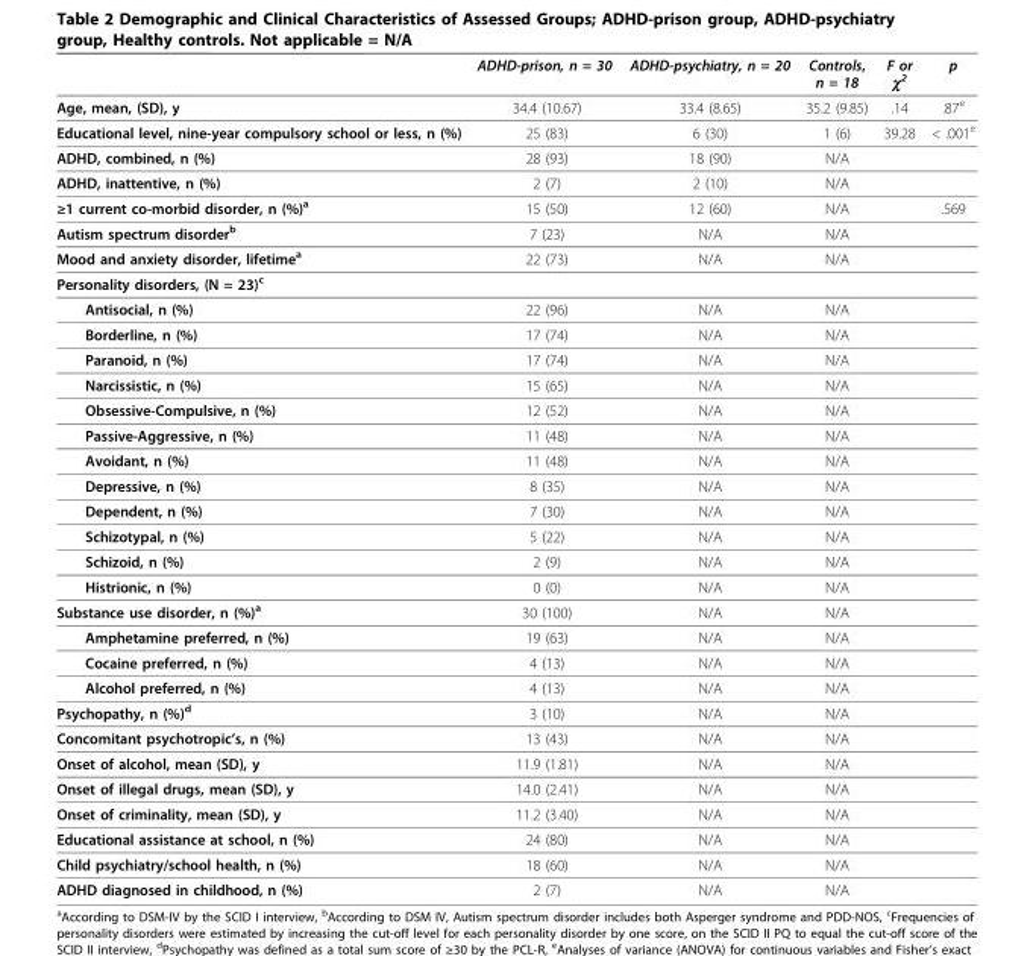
<table><thead><tr><td></td><td>ADHD-prison, n = 30</td><td>ADHD-psychiatry, n = 20</td><td>Controls, n = 18</td><td>F or χ<sup>2</sup></td><td>p</td></tr></thead><tbody><tr><td>Age, mean, (SD), y</td><td>34.4 (10.67)</td><td>33.4 (8.65)</td><td>35.2 (9.85)</td><td>.14</td><td>.87<sup>e</sup></td></tr><tr><td>Educational level, nine-year compulsory school or less, n (%)</td><td>25 (83)</td><td>6 (30)</td><td>1 (6)</td><td>39.28</td><td>&lt; .001<sup>e</sup></td></tr><tr><td>ADHD, combined, n (%)</td><td>28 (93)</td><td>18 (90)</td><td>N/A</td><td></td><td></td></tr><tr><td>ADHD, inattentive, n (%)</td><td>2 (7)</td><td>2 (10)</td><td>N/A</td><td></td><td></td></tr><tr><td>≥1 current co-morbid disorder, n (%)<sup>a</sup></td><td>15 (50)</td><td>12 (60)</td><td>N/A</td><td></td><td>.569</td></tr><tr><td>Autism spectrum disorder<sup>b</sup></td><td>7 (23)</td><td>N/A</td><td>N/A</td><td></td><td></td></tr><tr><td>Mood and anxiety disorder, lifetime<sup>a</sup></td><td>22 (73)</td><td>N/A</td><td>N/A</td><td></td><td></td></tr><tr><td colspan="6">Personality disorders, (N = 23)<sup>c</sup></td></tr><tr><td>Antisocial, n (%)</td><td>22 (96)</td><td>N/A</td><td>N/A</td><td></td><td></td></tr><tr><td>Borderline, n (%)</td><td>17 (74)</td><td>N/A</td><td>N/A</td><td></td><td></td></tr><tr><td>Paranoid, n (%)</td><td>17 (74)</td><td>N/A</td><td>N/A</td><td></td><td></td></tr><tr><td>Narcissistic, n (%)</td><td>15 (65)</td><td>N/A</td><td>N/A</td><td></td><td></td></tr><tr><td>Obsessive-Compulsive, n (%)</td><td>12 (52)</td><td>N/A</td><td>N/A</td><td></td><td></td></tr><tr><td>Passive-Aggressive, n (%)</td><td>11 (48)</td><td>N/A</td><td>N/A</td><td></td><td></td></tr><tr><td>Avoidant, n (%)</td><td>11 (48)</td><td>N/A</td><td>N/A</td><td></td><td></td></tr><tr><td>Depressive, n (%)</td><td>8 (35)</td><td>N/A</td><td>N/A</td><td></td><td></td></tr><tr><td>Dependent, n (%)</td><td>7 (30)</td><td>N/A</td><td>N/A</td><td></td><td></td></tr><tr><td>Schizotypal, n (%)</td><td>5 (22)</td><td>N/A</td><td>N/A</td><td></td><td></td></tr><tr><td>Schizoid, n (%)</td><td>2 (9)</td><td>N/A</td><td>N/A</td><td></td><td></td></tr><tr><td>Histrionic, n (%)</td><td>0 (0)</td><td>N/A</td><td>N/A</td><td></td><td></td></tr><tr><td>Substance use disorder, n (%)<sup>a</sup></td><td>30 (100)</td><td>N/A</td><td>N/A</td><td></td><td></td></tr><tr><td>Amphetamine preferred, n (%)</td><td>19 (63)</td><td>N/A</td><td>N/A</td><td></td><td></td></tr><tr><td>Cocaine preferred, n (%)</td><td>4 (13)</td><td>N/A</td><td>N/A</td><td></td><td></td></tr><tr><td>Alcohol preferred, n (%)</td><td>4 (13)</td><td>N/A</td><td>N/A</td><td></td><td></td></tr><tr><td>Psychopathy, n (%)<sup>d</sup></td><td>3 (10)</td><td>N/A</td><td>N/A</td><td></td><td></td></tr><tr><td>Concomitant psychotropic’s, n (%)</td><td>13 (43)</td><td>N/A</td><td>N/A</td><td></td><td></td></tr><tr><td>Onset of alcohol, mean (SD), y</td><td>11.9 (1.81)</td><td>N/A</td><td>N/A</td><td></td><td></td></tr><tr><td>Onset of illegal drugs, mean (SD), y</td><td>14.0 (2.41)</td><td>N/A</td><td>N/A</td><td></td><td></td></tr><tr><td>Onset of criminality, mean (SD), y</td><td>11.2 (3.40)</td><td>N/A</td><td>N/A</td><td></td><td></td></tr><tr><td>Educational assistance at school, n (%)</td><td>24 (80)</td><td>N/A</td><td>N/A</td><td></td><td></td></tr><tr><td>Child psychiatry/school health, n (%)</td><td>18 (60)</td><td>N/A</td><td>N/A</td><td></td><td></td></tr><tr><td>ADHD diagnosed in childhood, n (%)</td><td>2 (7)</td><td>N/A</td><td>N/A</td><td></td><td></td></tr></tbody></table>